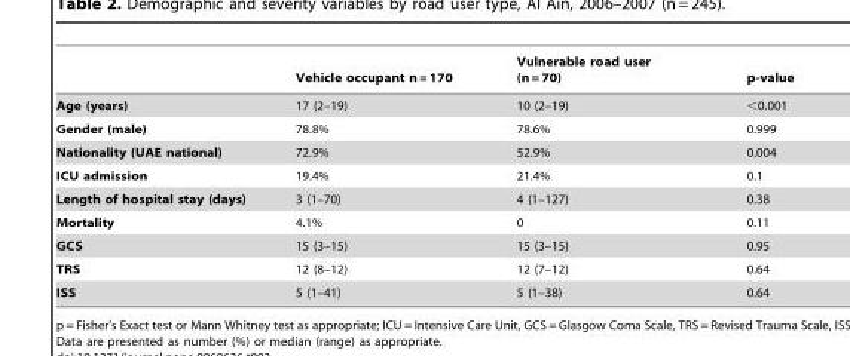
<table><thead><tr><td></td><td>Vehicle occupant n = 170</td><td>Vulnerable road user (n = 70)</td><td>p-value</td></tr></thead><tbody><tr><td>Age (years)</td><td>17 (2–19)</td><td>10 (2–19)</td><td>&lt;0.001</td></tr><tr><td>Gender (male)</td><td>78.8%</td><td>78.6%</td><td>0.999</td></tr><tr><td>Nationality (UAE national)</td><td>72.9%</td><td>52.9%</td><td>0.004</td></tr><tr><td>ICU admission</td><td>19.4%</td><td>21.4%</td><td>0.1</td></tr><tr><td>Length of hospital stay (days)</td><td>3 (1–70)</td><td>4 (1–127)</td><td>0.38</td></tr><tr><td>Mortality</td><td>4.1%</td><td>0</td><td>0.11</td></tr><tr><td>GCS</td><td>15 (3–15)</td><td>15 (3–15)</td><td>0.95</td></tr><tr><td>TRS</td><td>12 (8–12)</td><td>12 (7–12)</td><td>0.64</td></tr><tr><td>ISS</td><td>5 (1–41)</td><td>5 (1–38)</td><td>0.64</td></tr></tbody></table>